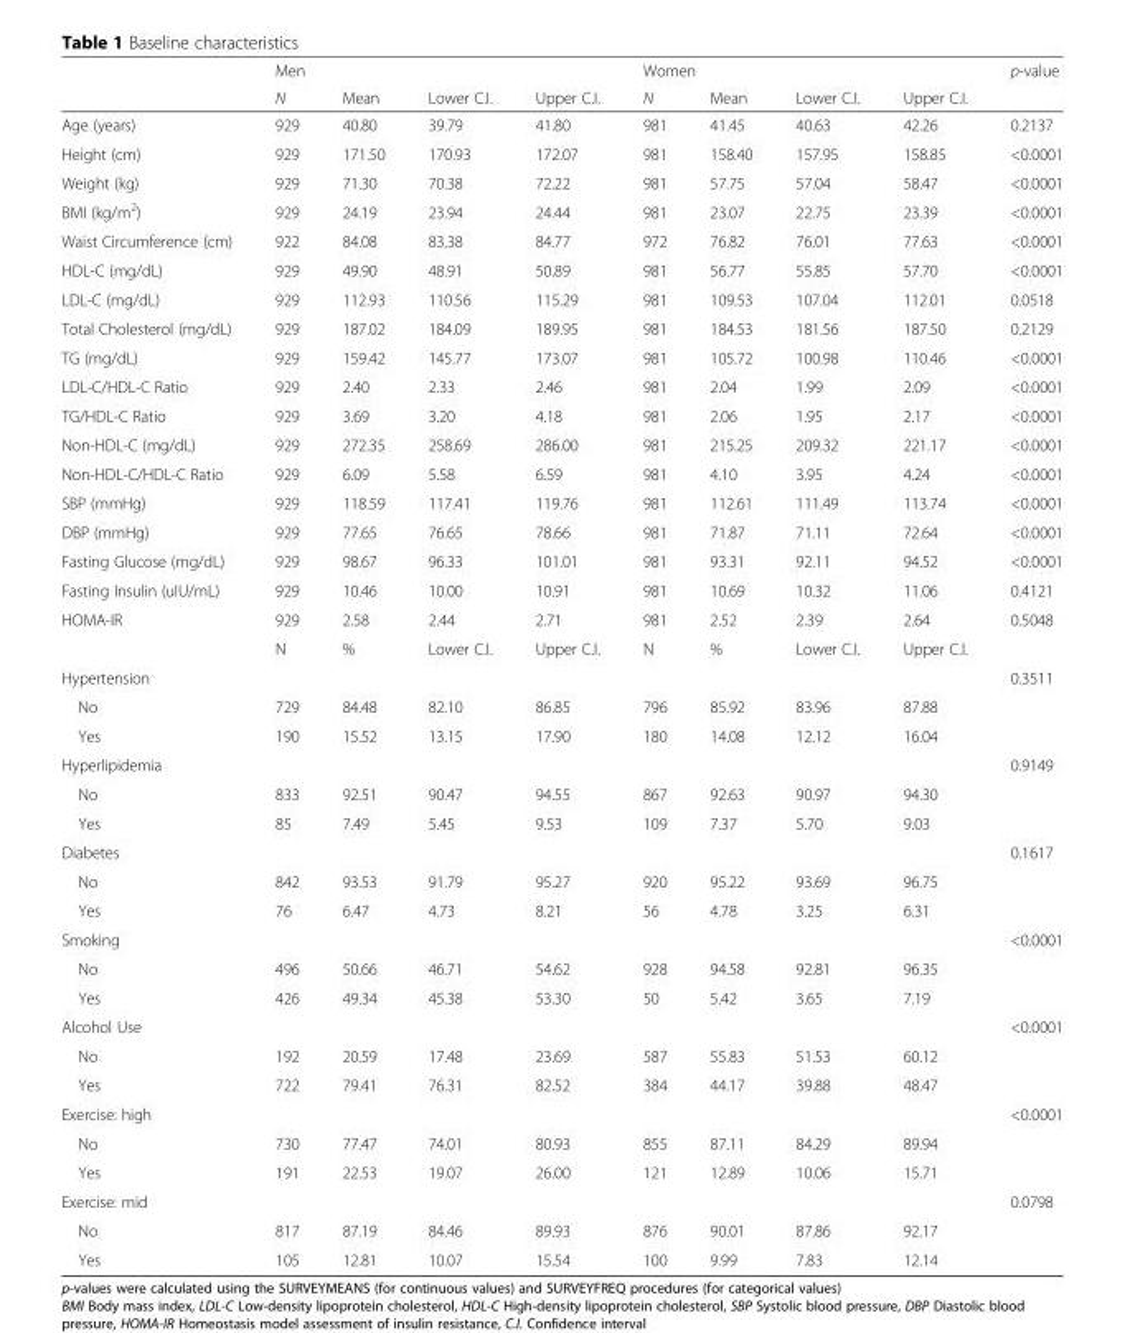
<table><thead><tr><td rowspan="2"></td><td colspan="4">Men</td><td colspan="4">Women</td><td rowspan="2">p-value</td></tr><tr><td>N</td><td>Mean</td><td>Lower C.I.</td><td>Upper C.I.</td><td>N</td><td>Mean</td><td>Lower C.I.</td><td>Upper C.I.</td></tr></thead><tbody><tr><td>Age (years)</td><td>929</td><td>40.80</td><td>39.79</td><td>41.80</td><td>981</td><td>41.45</td><td>40.63</td><td>42.26</td><td>0.2137</td></tr><tr><td>Height (cm)</td><td>929</td><td>171.50</td><td>170.93</td><td>172.07</td><td>981</td><td>158.40</td><td>157.95</td><td>158.85</td><td>&lt;0.0001</td></tr><tr><td>Weight (kg)</td><td>929</td><td>71.30</td><td>70.38</td><td>72.22</td><td>981</td><td>57.75</td><td>57.04</td><td>58.47</td><td>&lt;0.0001</td></tr><tr><td>BMI (kg/m<sup>2</sup>)</td><td>929</td><td>24.19</td><td>23.94</td><td>24.44</td><td>981</td><td>23.07</td><td>22.75</td><td>23.39</td><td>&lt;0.0001</td></tr><tr><td>Waist Circumference (cm)</td><td>922</td><td>84.08</td><td>83.38</td><td>84.77</td><td>972</td><td>76.82</td><td>76.01</td><td>77.63</td><td>&lt;0.0001</td></tr><tr><td>HDL-C (mg/dL)</td><td>929</td><td>49.90</td><td>48.91</td><td>50.89</td><td>981</td><td>56.77</td><td>55.85</td><td>57.70</td><td>&lt;0.0001</td></tr><tr><td>LDL-C (mg/dL)</td><td>929</td><td>112.93</td><td>110.56</td><td>115.29</td><td>981</td><td>109.53</td><td>107.04</td><td>112.01</td><td>0.0518</td></tr><tr><td>Total Cholesterol (mg/dL)</td><td>929</td><td>187.02</td><td>184.09</td><td>189.95</td><td>981</td><td>184.53</td><td>181.56</td><td>187.50</td><td>0.2129</td></tr><tr><td>TG (mg/dL)</td><td>929</td><td>159.42</td><td>145.77</td><td>173.07</td><td>981</td><td>105.72</td><td>100.98</td><td>110.46</td><td>&lt;0.0001</td></tr><tr><td>LDL-C/HDL-C Ratio</td><td>929</td><td>2.40</td><td>2.33</td><td>2.46</td><td>981</td><td>2.04</td><td>1.99</td><td>2.09</td><td>&lt;0.0001</td></tr><tr><td>TG/HDL-C Ratio</td><td>929</td><td>3.69</td><td>3.20</td><td>4.18</td><td>981</td><td>2.06</td><td>1.95</td><td>2.17</td><td>&lt;0.0001</td></tr><tr><td>Non-HDL-C (mg/dL)</td><td>929</td><td>272.35</td><td>258.69</td><td>286.00</td><td>981</td><td>215.25</td><td>209.32</td><td>221.17</td><td>&lt;0.0001</td></tr><tr><td>Non-HDL-C/HDL-C Ratio</td><td>929</td><td>6.09</td><td>5.58</td><td>6.59</td><td>981</td><td>4.10</td><td>3.95</td><td>4.24</td><td>&lt;0.0001</td></tr><tr><td>SBP (mmHg)</td><td>929</td><td>118.59</td><td>117.41</td><td>119.76</td><td>981</td><td>112.61</td><td>111.49</td><td>113.74</td><td>&lt;0.0001</td></tr><tr><td>DBP (mmHg)</td><td>929</td><td>77.65</td><td>76.65</td><td>78.66</td><td>981</td><td>71.87</td><td>71.11</td><td>72.64</td><td>&lt;0.0001</td></tr><tr><td>Fasting Glucose (mg/dL)</td><td>929</td><td>98.67</td><td>96.33</td><td>101.01</td><td>981</td><td>93.31</td><td>92.11</td><td>94.52</td><td>&lt;0.0001</td></tr><tr><td>Fasting Insulin (uIU/mL)</td><td>929</td><td>10.46</td><td>10.00</td><td>10.91</td><td>981</td><td>10.69</td><td>10.32</td><td>11.06</td><td>0.4121</td></tr><tr><td rowspan="2">HOMA-IR</td><td>929</td><td>2.58</td><td>2.44</td><td>2.71</td><td>981</td><td>2.52</td><td>2.39</td><td>2.64</td><td>0.5048</td></tr><tr><td>N</td><td>%</td><td>Lower C.I.</td><td>Upper C.I.</td><td>N</td><td>%</td><td>Lower C.I.</td><td>Upper C.I.</td><td></td></tr><tr><td>Hypertension</td><td></td><td></td><td></td><td></td><td></td><td></td><td></td><td></td><td>0.3511</td></tr><tr><td>No</td><td>729</td><td>84.48</td><td>82.10</td><td>86.85</td><td>796</td><td>85.92</td><td>83.96</td><td>87.88</td><td></td></tr><tr><td>Yes</td><td>190</td><td>15.52</td><td>13.15</td><td>17.90</td><td>180</td><td>14.08</td><td>12.12</td><td>16.04</td><td></td></tr><tr><td>Hyperlipidemia</td><td></td><td></td><td></td><td></td><td></td><td></td><td></td><td></td><td>0.9149</td></tr><tr><td>No</td><td>833</td><td>92.51</td><td>90.47</td><td>94.55</td><td>867</td><td>92.63</td><td>90.97</td><td>94.30</td><td></td></tr><tr><td>Yes</td><td>85</td><td>7.49</td><td>5.45</td><td>9.53</td><td>109</td><td>7.37</td><td>5.70</td><td>9.03</td><td></td></tr><tr><td>Diabetes</td><td></td><td></td><td></td><td></td><td></td><td></td><td></td><td></td><td>0.1617</td></tr><tr><td>No</td><td>842</td><td>93.53</td><td>91.79</td><td>95.27</td><td>920</td><td>95.22</td><td>93.69</td><td>96.75</td><td></td></tr><tr><td>Yes</td><td>76</td><td>6.47</td><td>4.73</td><td>8.21</td><td>56</td><td>4.78</td><td>3.25</td><td>6.31</td><td></td></tr><tr><td>Smoking</td><td></td><td></td><td></td><td></td><td></td><td></td><td></td><td></td><td>&lt;0.0001</td></tr><tr><td>No</td><td>496</td><td>50.66</td><td>46.71</td><td>54.62</td><td>928</td><td>94.58</td><td>92.81</td><td>96.35</td><td></td></tr><tr><td>Yes</td><td>426</td><td>49.34</td><td>45.38</td><td>53.30</td><td>50</td><td>5.42</td><td>3.65</td><td>7.19</td><td></td></tr><tr><td>Alcohol Use</td><td></td><td></td><td></td><td></td><td></td><td></td><td></td><td></td><td>&lt;0.0001</td></tr><tr><td>No</td><td>192</td><td>20.59</td><td>17.48</td><td>23.69</td><td>587</td><td>55.83</td><td>51.53</td><td>60.12</td><td></td></tr><tr><td>Yes</td><td>722</td><td>79.41</td><td>76.31</td><td>82.52</td><td>384</td><td>44.17</td><td>39.88</td><td>48.47</td><td></td></tr><tr><td>Exercise: high</td><td></td><td></td><td></td><td></td><td></td><td></td><td></td><td></td><td>&lt;0.0001</td></tr><tr><td>No</td><td>730</td><td>77.47</td><td>74.01</td><td>80.93</td><td>855</td><td>87.11</td><td>84.29</td><td>89.94</td><td></td></tr><tr><td>Yes</td><td>191</td><td>22.53</td><td>19.07</td><td>26.00</td><td>121</td><td>12.89</td><td>10.06</td><td>15.71</td><td></td></tr><tr><td>Exercise: mid</td><td></td><td></td><td></td><td></td><td></td><td></td><td></td><td></td><td>0.0798</td></tr><tr><td>No</td><td>817</td><td>87.19</td><td>84.46</td><td>89.93</td><td>876</td><td>90.01</td><td>87.86</td><td>92.17</td><td></td></tr><tr><td>Yes</td><td>105</td><td>12.81</td><td>10.07</td><td>15.54</td><td>100</td><td>9.99</td><td>7.83</td><td>12.14</td><td></td></tr></tbody></table>